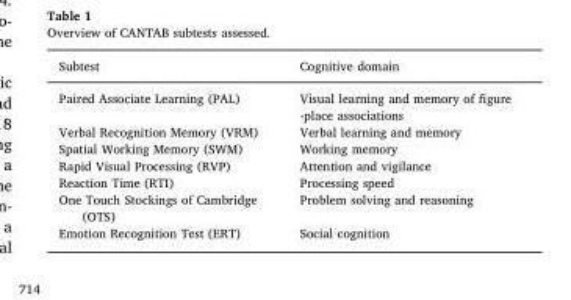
<table><thead><tr><td>Subtest</td><td>Cognitive domain</td></tr></thead><tbody><tr><td>Paired Associate Learning (PAL)</td><td>Visual learning and memory of figure -place associations</td></tr><tr><td>Verbal Recognition Memory (VRM)</td><td>Verbal learning and memory</td></tr><tr><td>Spatial Working Memory (SWM)</td><td>Working memory</td></tr><tr><td>Rapid Visual Processing (RVP)</td><td>Attention and vigilance</td></tr><tr><td>Reaction Time (RTI)</td><td>Processing speed</td></tr><tr><td>One Touch Stockings of Cambridge (OTS)</td><td>Problem solving and reasoning</td></tr><tr><td>Emotion Recognition Test (ERT)</td><td>Social cognition</td></tr></tbody></table>